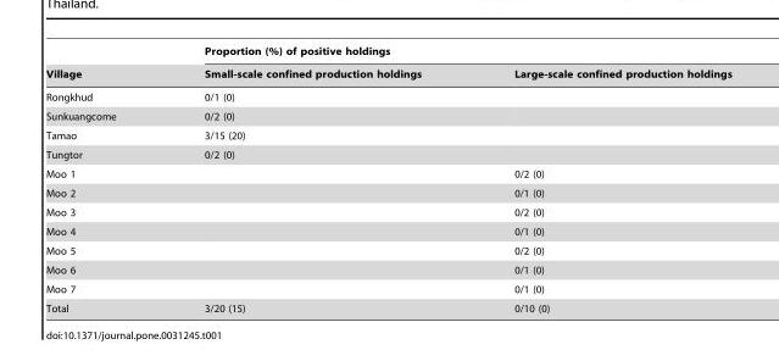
<table><thead><tr><td rowspan="2">Village</td><td colspan="2">Proportion (%) of positive holdings</td></tr><tr><td>Small-scale confined production holdings</td><td>Large-scale confined production holdings</td></tr></thead><tbody><tr><td>Rongkhud</td><td>0/1 (0)</td><td></td></tr><tr><td>Sunkuangcome</td><td>0/2 (0)</td><td></td></tr><tr><td>Tamao</td><td>3/15 (20)</td><td></td></tr><tr><td>Tungtor</td><td>0/2 (0)</td><td></td></tr><tr><td>Moo 1</td><td></td><td>0/2 (0)</td></tr><tr><td>Moo 2</td><td></td><td>0/1 (0)</td></tr><tr><td>Moo 3</td><td></td><td>0/2 (0)</td></tr><tr><td>Moo 4</td><td></td><td>0/1 (0)</td></tr><tr><td>Moo 5</td><td></td><td>0/2 (0)</td></tr><tr><td>Moo 6</td><td></td><td>0/1 (0)</td></tr><tr><td>Moo 7</td><td></td><td>0/1 (0)</td></tr><tr><td>Total</td><td>3/20 (15)</td><td>0/10 (0)</td></tr></tbody></table>